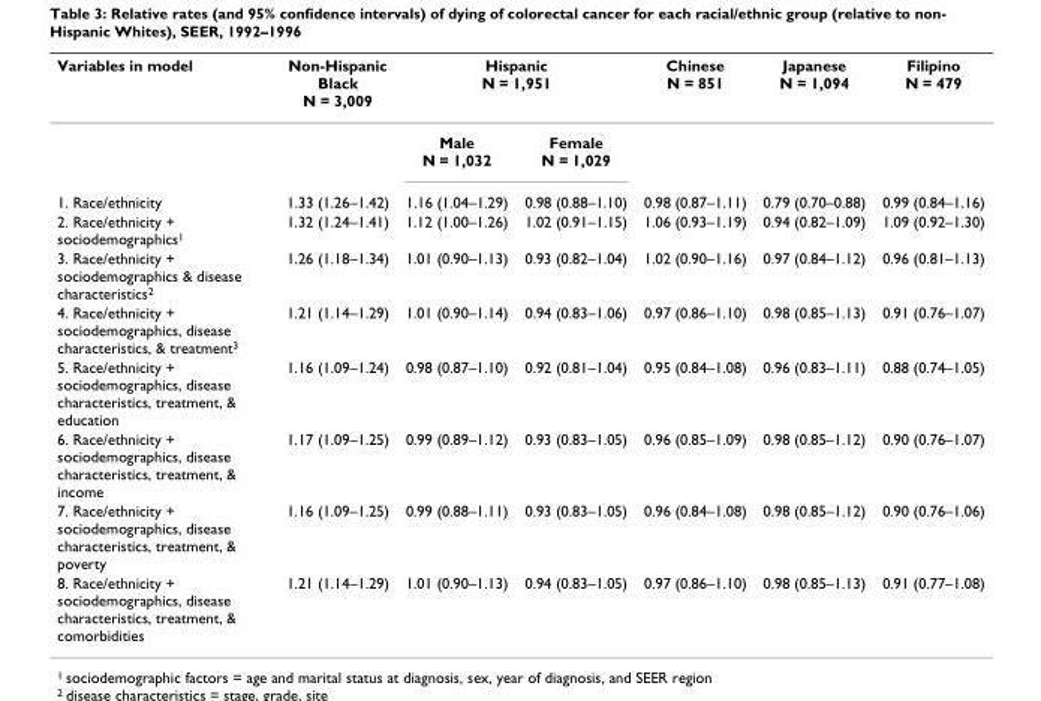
<table><thead><tr><td rowspan="2">Variables in model</td><td rowspan="2">Non-Hispanic Black N = 3,009</td><td colspan="2">Hispanic N = 1,951</td><td rowspan="2">Chinese N = 851</td><td rowspan="2">Japanese N = 1,094</td><td rowspan="2">Filipino N = 479</td></tr><tr><td>Male N = 1,032</td><td>Female N = 1,029</td></tr></thead><tbody><tr><td>1. Race/ethnicity</td><td>1.33 (1.26–1.42)</td><td>1.16 (1.04–1.29)</td><td>0.98 (0.88–1.10)</td><td>0.98 (0.87–1.11)</td><td>0.79 (0.70–0.88)</td><td>0.99 (0.84–1.16)</td></tr><tr><td>2. Race/ethnicity + sociodemographics<sup>1</sup></td><td>1.32 (1.24–1.41)</td><td>1.12 (1.00–1.26)</td><td>1.02 (0.91–1.15)</td><td>1.06 (0.93–1.19)</td><td>0.94 (0.82–1.09)</td><td>1.09 (0.92–1.30)</td></tr><tr><td>3. Race/ethnicity + sociodemographics &amp; disease characteristics<sup>2</sup></td><td>1.26 (1.18–1.34)</td><td>1.01 (0.90–1.13)</td><td>0.93 (0.82–1.04)</td><td>1.02 (0.90–1.16)</td><td>0.97 (0.84–1.12)</td><td>0.96 (0.81–1.13)</td></tr><tr><td>4. Race/ethnicity + sociodemographics, disease characteristics, &amp; treatment<sup>3</sup></td><td>1.21 (1.14–1.29)</td><td>1.01 (0.90–1.14)</td><td>0.94 (0.83–1.06)</td><td>0.97 (0.86–1.10)</td><td>0.98 (0.85–1.13)</td><td>0.91 (0.76–1.07)</td></tr><tr><td>5. Race/ethnicity + sociodemographics, disease characteristics, treatment, &amp; education</td><td>1.16 (1.09–1.24)</td><td>0.98 (0.87–1.10)</td><td>0.92 (0.81–1.04)</td><td>0.95 (0.84–1.08)</td><td>0.96 (0.83–1.11)</td><td>0.88 (0.74–1.05)</td></tr><tr><td>6. Race/ethnicity + sociodemographics, disease characteristics, treatment, &amp; income</td><td>1.17 (1.09–1.25)</td><td>0.99 (0.89–1.12)</td><td>0.93 (0.83–1.05)</td><td>0.96 (0.85–1.09)</td><td>0.98 (0.85–1.12)</td><td>0.90 (0.76–1.07)</td></tr><tr><td>7. Race/ethnicity + sociodemographics, disease characteristics, treatment, &amp; poverty</td><td>1.16 (1.09–1.25)</td><td>0.99 (0.88–1.11)</td><td>0.93 (0.83–1.05)</td><td>0.96 (0.84–1.08)</td><td>0.98 (0.85–1.12)</td><td>0.90 (0.76–1.06)</td></tr><tr><td>8. Race/ethnicity + sociodemographics, disease characteristics, treatment, &amp; comorbidities</td><td>1.21 (1.14–1.29)</td><td>1.01 (0.90–1.13)</td><td>0.94 (0.83–1.05)</td><td>0.97 (0.86–1.10)</td><td>0.98 (0.85–1.13)</td><td>0.91 (0.77–1.08)</td></tr></tbody></table>